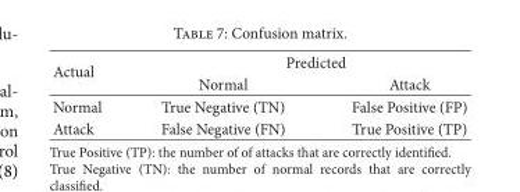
<table><thead><tr><td rowspan="2">Actual</td><td colspan="2">Predicted</td></tr><tr><td>Normal</td><td>Attack</td></tr></thead><tbody><tr><td>Normal</td><td>True Negative (TN)</td><td>False Positive (FP)</td></tr><tr><td>Attack</td><td>False Negative (FN)</td><td>True Positive (TP)</td></tr></tbody></table>